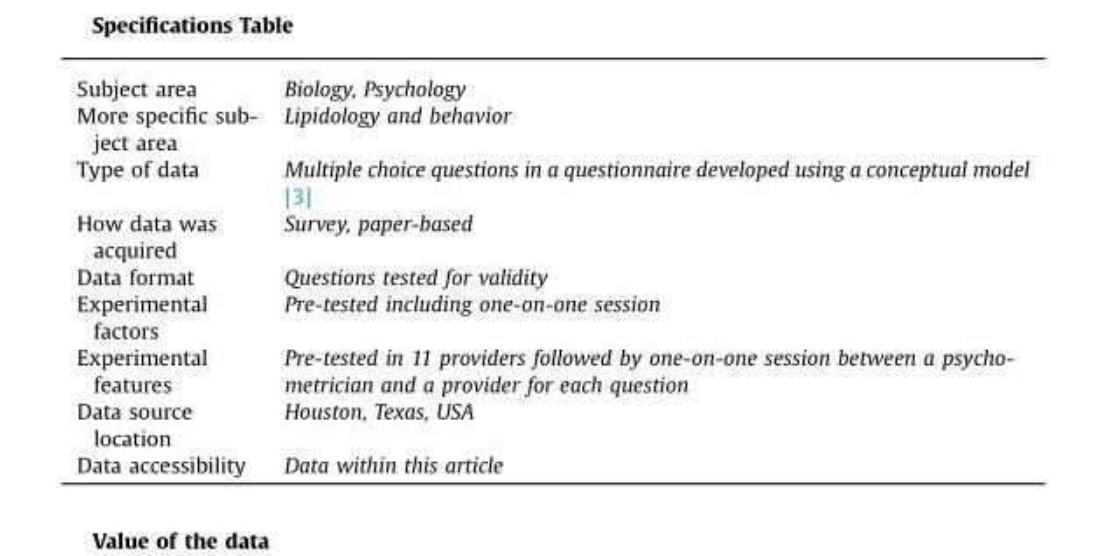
<table><tbody><tr><td>Subject area</td><td>Biology, Psychology</td></tr><tr><td>More specific sub- ject area</td><td>Lipidology and behavior</td></tr><tr><td>Type of data</td><td>Multiple choice questions in a questionnaire developed using a conceptual model [3]</td></tr><tr><td>How data was acquired</td><td>Survey, paper-based</td></tr><tr><td>Data format</td><td>Questions tested for validity</td></tr><tr><td>Experimental factors</td><td>Pre-tested including one-on-one session</td></tr><tr><td>Experimental features</td><td>Pre-tested in 11 providers followed by one-on-one session between a psycho- metrician and a provider for each question</td></tr><tr><td>Data source location</td><td>Houston, Texas, USA</td></tr><tr><td>Data accessibility</td><td>Data within this article</td></tr></tbody></table>